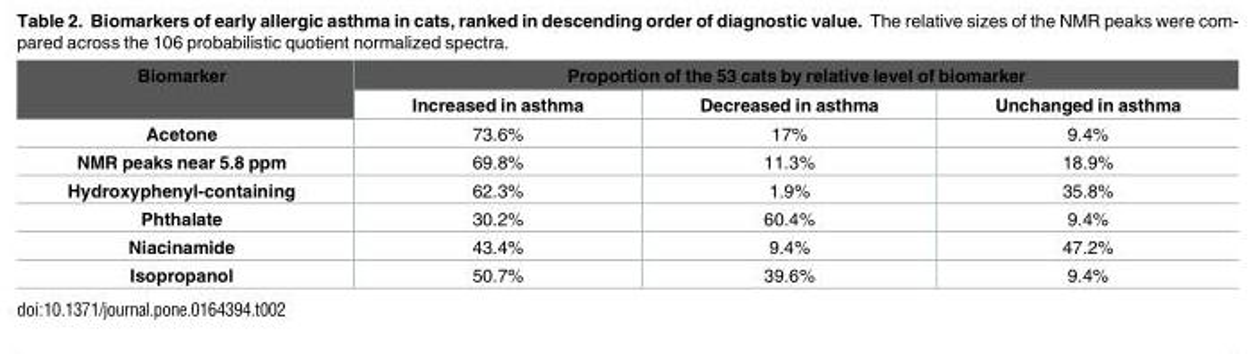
<table><thead><tr><td rowspan="2">Biomarker</td><td colspan="3">Proportion of the 53 cats by relative level of biomarker</td></tr><tr><td>Increased in asthma</td><td>Decreased in asthma</td><td>Unchanged in asthma</td></tr></thead><tbody><tr><td>Acetone</td><td>73.6%</td><td>17%</td><td>9.4%</td></tr><tr><td>NMR peaks near 5.8 ppm</td><td>69.8%</td><td>11.3%</td><td>18.9%</td></tr><tr><td>Hydroxyphenyl-containing</td><td>62.3%</td><td>1.9%</td><td>35.8%</td></tr><tr><td>Phthalate</td><td>30.2%</td><td>60.4%</td><td>9.4%</td></tr><tr><td>Niacinamide</td><td>43.4%</td><td>9.4%</td><td>47.2%</td></tr><tr><td>Isopropanol</td><td>50.7%</td><td>39.6%</td><td>9.4%</td></tr></tbody></table>